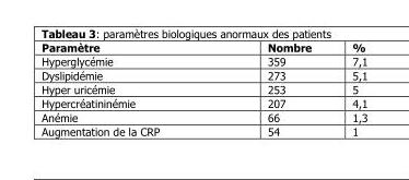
<table><thead><tr><td>Paramètre</td><td>Nombre</td><td>%</td></tr></thead><tbody><tr><td>Hyperglycémie</td><td>359</td><td>7,1</td></tr><tr><td>Dyslipidémie</td><td>273</td><td>5,1</td></tr><tr><td>Hyper uricémie</td><td>253</td><td>5</td></tr><tr><td>Hypercréatininémie</td><td>207</td><td>4,1</td></tr><tr><td>Anémie</td><td>66</td><td>1,3</td></tr><tr><td>Augmentation de la CRP</td><td>54</td><td>1</td></tr></tbody></table>